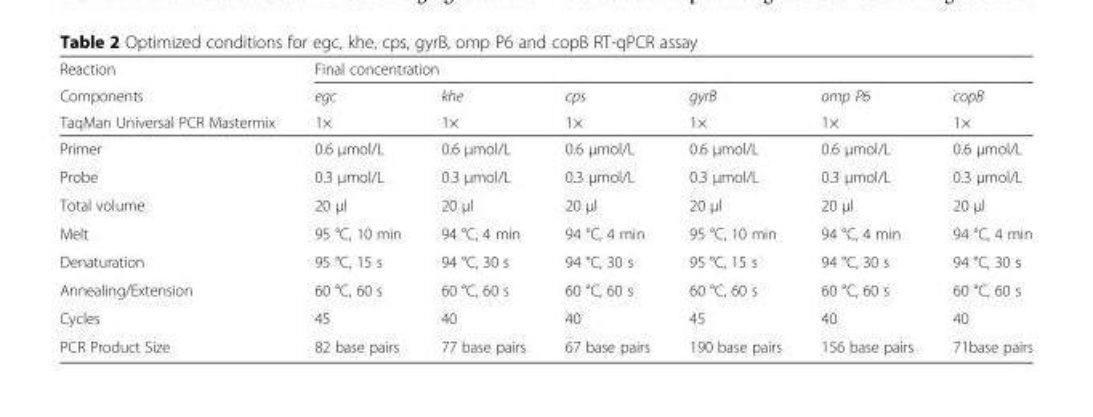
<table><thead><tr><td rowspan="3">Reaction Components TaqMan Universal PCR Mastermix</td><td colspan="6">Final concentration</td></tr><tr><td rowspan="2">egc 1×</td><td rowspan="2">khe 1×</td><td rowspan="2">cps 1×</td><td rowspan="2">gyrB 1×</td><td rowspan="2">omp P6 1×</td><td rowspan="2">copB 1×</td></tr><tr></tr></thead><tbody><tr><td>Primer</td><td>0.6 μmol/L</td><td>0.6 μmol/L</td><td>0.6 μmol/L</td><td>0.6 μmol/L</td><td>0.6 μmol/L</td><td>0.6 μmol/L</td></tr><tr><td>Probe</td><td>0.3 μmol/L</td><td>0.3 μmol/L</td><td>0.3 μmol/L</td><td>0.3 μmol/L</td><td>0.3 μmol/L</td><td>0.3 μmol/L</td></tr><tr><td>Total volume</td><td>20 μl</td><td>20 μl</td><td>20 μl</td><td>20 μl</td><td>20 μl</td><td>20 μl</td></tr><tr><td>Melt</td><td>95 °C, 10 min</td><td>94 °C, 4 min</td><td>94 °C, 4 min</td><td>95 °C, 10 min</td><td>94 °C, 4 min</td><td>94 °C, 4 min</td></tr><tr><td>Denaturation</td><td>95 °C, 15 s</td><td>94 °C, 30 s</td><td>94 °C, 30 s</td><td>95 °C, 15 s</td><td>94 °C, 30 s</td><td>94 °C, 30 s</td></tr><tr><td>Annealing/Extension</td><td>60 °C, 60 s</td><td>60 °C, 60 s</td><td>60 °C, 60 s</td><td>60 °C, 60 s</td><td>60 °C, 60 s</td><td>60 °C, 60 s</td></tr><tr><td>Cycles</td><td>45</td><td>40</td><td>40</td><td>45</td><td>40</td><td>40</td></tr><tr><td>PCR Product Size</td><td>82 base pairs</td><td>77 base pairs</td><td>67 base pairs</td><td>190 base pairs</td><td>156 base pairs</td><td>71base pairs</td></tr></tbody></table>